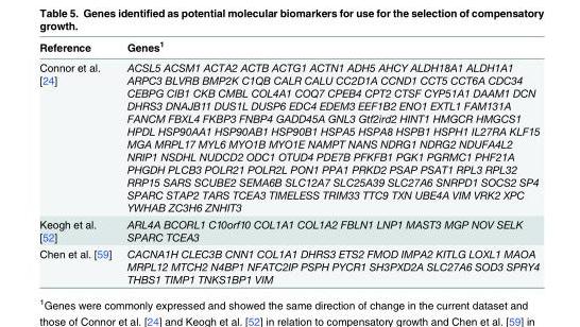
<table><thead><tr><td>Reference</td><td>Genes<sup>1</sup></td></tr></thead><tbody><tr><td>Connor et al. [24]</td><td>ACSL5 ACSM1 ACTA2 ACTB ACTG1 ACTN1 ADH5 AHCY ALDH18A1 ALDH1A1 ARPC3 BLVRB BMP2K C1QB CALR CALU CC2D1A CCND1 CCT5 CCT6A CDC34 CEBPG CIB1 CKB CMBL COL4A1 COQ7 CPEB4 CPT2 CTSF CYP51A1 DAAM1 DCN DHRS3 DNAJB11 DUS1L DUSP6 EDC4 EDEM3 EEF1B2 ENO1 EXTL1 FAM131A FANCM FBXL4 FKBP3 FNBP4 GADD45A GNL3 Gtf2ird2 HINT1 HMGCR HMGCS1 HPDL HSP90AA1 HSP90AB1 HSP90B1 HSPA5 HSPA8 HSPB1 HSPH1 IL27RA KLF15 MGA MRPL17 MYL6 MYO1B MYO1E NAMPT NANS NDRG1 NDRG2 NDUFA4L2 NRIP1 NSDHL NUDCD2 ODC1 OTUD4 PDE7B PFKFB1 PGK1 PGRMC1 PHF21A PHGDH PLCB3 POLR21 POLR2L PON1 PPA1 PRKD2 PSAP PSAT1 RPL3 RPL32 RRP15 SARS SCUBE2 SEMA6B SLC12A7 SLC25A39 SLC27A6 SNRPD1 SOCS2 SP4 SPARC STAP2 TARS TCEA3 TIMELESS TRIM33 TTC9 TXN UBE4A VIM VRK2 XPC YWHAB ZC3H6 ZNHIT3</td></tr><tr><td>Keogh et al. [52]</td><td>ARL4A BCORL1 C10orf10 COL1A1 COL1A2 FBLN1 LNP1 MAST3 MGP NOV SELK SPARC TCEA3</td></tr><tr><td>Chen et al. [59]</td><td>CACNA1H CLEC3B CNN1 COL1A1 DHRS3 ETS2 FMOD IMPA2 KITLG LOXL1 MAOA MRPL12 MTCH2 N4BP1 NFATC2IP PSPH PYCR1 SH3PXD2A SLC27A6 SOD3 SPRY4 THBS1 TIMP1 TNKS1BP1 VIM</td></tr></tbody></table>